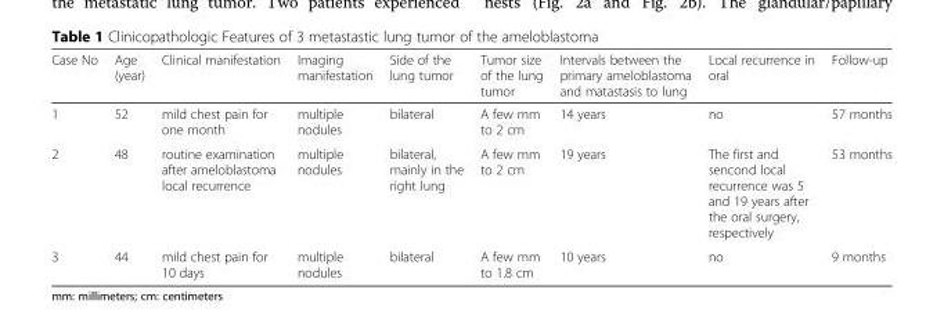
<table><thead><tr><td>Case No</td><td>Age (year)</td><td>Clinical manifestation</td><td>Imaging manifestation</td><td>Side of the lung tumor</td><td>Tumor size of the lung tumor</td><td>Intervals between the primary ameloblastoma and matastasis to lung</td><td>Local recurrence in oral</td><td>Follow-up</td></tr></thead><tbody><tr><td>1</td><td>52</td><td>mild chest pain for one month</td><td>multiple nodules</td><td>bilateral</td><td>A few mm to 2 cm</td><td>14 years</td><td>no</td><td>57 months</td></tr><tr><td>2</td><td>48</td><td>routine examination after ameloblastoma local recurrence</td><td>multiple nodules</td><td>bilateral, mainly in the right lung</td><td>A few mm to 2 cm</td><td>19 years</td><td>The first and sencond local recurrence was 5 and 19 years after the oral surgery, respectively</td><td>53 months</td></tr><tr><td>3</td><td>44</td><td>mild chest pain for 10 days</td><td>multiple nodules</td><td>bilateral</td><td>A few mm to 1.8 cm</td><td>10 years</td><td>no</td><td>9 months</td></tr></tbody></table>